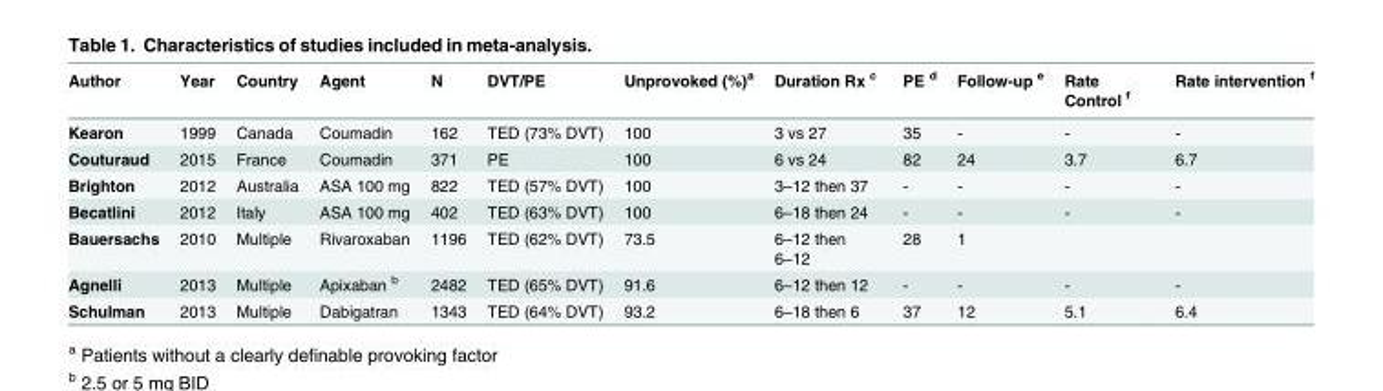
<table><thead><tr><td>Author</td><td>Year</td><td>Country</td><td>Agent</td><td>N</td><td>DVT/PE</td><td>Unprovoked (%)<sup>a</sup></td><td>Duration Rx <sup>c</sup></td><td>PE <sup>d</sup></td><td>Follow-up <sup>e</sup></td><td>Rate Control <sup>f</sup></td><td>Rate intervention <sup>f</sup></td></tr></thead><tbody><tr><td>Kearon</td><td>1999</td><td>Canada</td><td>Coumadin</td><td>162</td><td>TED (73% DVT)</td><td>100</td><td>3 vs 27</td><td>35</td><td>-</td><td>-</td><td>-</td></tr><tr><td>Couturaud</td><td>2015</td><td>France</td><td>Coumadin</td><td>371</td><td>PE</td><td>100</td><td>6 vs 24</td><td>82</td><td>24</td><td>3.7</td><td>6.7</td></tr><tr><td>Brighton</td><td>2012</td><td>Australia</td><td>ASA 100 mg</td><td>822</td><td>TED (57% DVT)</td><td>100</td><td>3–12 then 37</td><td>-</td><td>-</td><td>-</td><td>-</td></tr><tr><td>Becatlini</td><td>2012</td><td>Italy</td><td>ASA 100 mg</td><td>402</td><td>TED (63% DVT)</td><td>100</td><td>6–18 then 24</td><td>-</td><td>-</td><td>-</td><td>-</td></tr><tr><td>Bauersachs</td><td>2010</td><td>Multiple</td><td>Rivaroxaban</td><td>1196</td><td>TED (62% DVT)</td><td>73.5</td><td>6–12 then 6–12</td><td>28</td><td>1</td><td></td><td></td></tr><tr><td>Agnelli</td><td>2013</td><td>Multiple</td><td>Apixaban <sup>b</sup></td><td>2482</td><td>TED (65% DVT)</td><td>91.6</td><td>6–12 then 12</td><td>-</td><td>-</td><td>-</td><td>-</td></tr><tr><td>Schulman</td><td>2013</td><td>Multiple</td><td>Dabigatran</td><td>1343</td><td>TED (64% DVT)</td><td>93.2</td><td>6–18 then 6</td><td>37</td><td>12</td><td>5.1</td><td>6.4</td></tr></tbody></table>